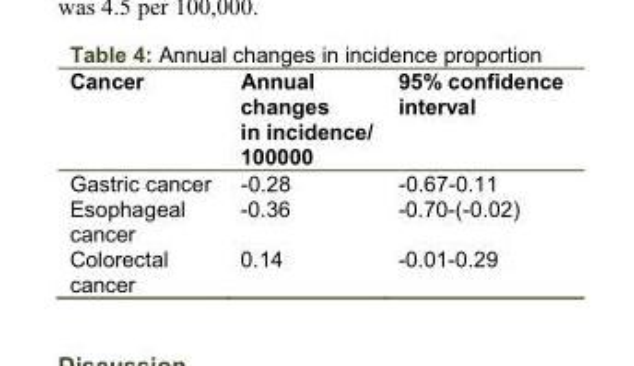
<table><thead><tr><td>Cancer</td><td>Annual changes in incidence/ 100000</td><td>95% confidence interval</td></tr></thead><tbody><tr><td>Gastric cancer</td><td>-0.28</td><td>-0.67-0.11</td></tr><tr><td>Esophageal cancer</td><td>-0.36</td><td>-0.70-(-0.02)</td></tr><tr><td>Colorectal cancer</td><td>0.14</td><td>-0.01-0.29</td></tr></tbody></table>